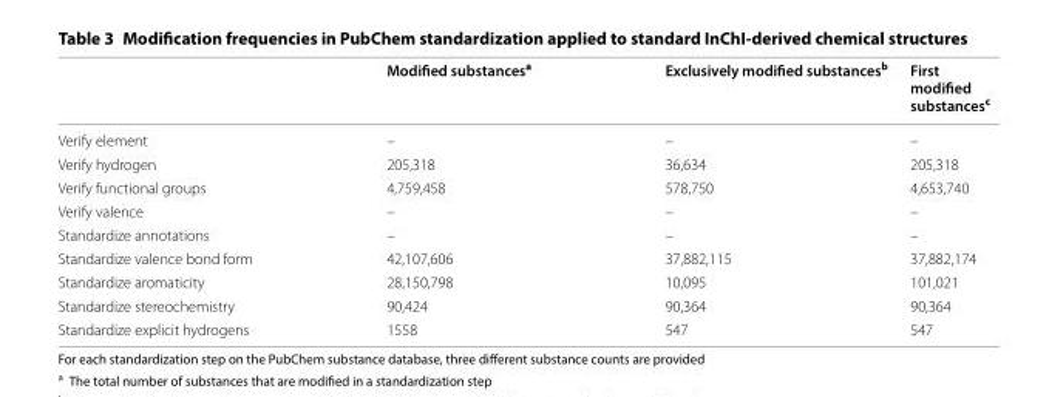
<table><thead><tr><td></td><td>Modified substances<sup>a</sup></td><td>Exclusively modified substances<sup>b</sup></td><td>First modified substances<sup>c</sup></td></tr></thead><tbody><tr><td>Verify element</td><td>–</td><td>–</td><td>–</td></tr><tr><td>Verify hydrogen</td><td>205,318</td><td>36,634</td><td>205,318</td></tr><tr><td>Verify functional groups</td><td>4,759,458</td><td>578,750</td><td>4,653,740</td></tr><tr><td>Verify valence</td><td>–</td><td>–</td><td>–</td></tr><tr><td>Standardize annotations</td><td>–</td><td>–</td><td>–</td></tr><tr><td>Standardize valence bond form</td><td>42,107,606</td><td>37,882,115</td><td>37,882,174</td></tr><tr><td>Standardize aromaticity</td><td>28,150,798</td><td>10,095</td><td>101,021</td></tr><tr><td>Standardize stereochemistry</td><td>90,424</td><td>90,364</td><td>90,364</td></tr><tr><td>Standardize explicit hydrogens</td><td>1558</td><td>547</td><td>547</td></tr></tbody></table>